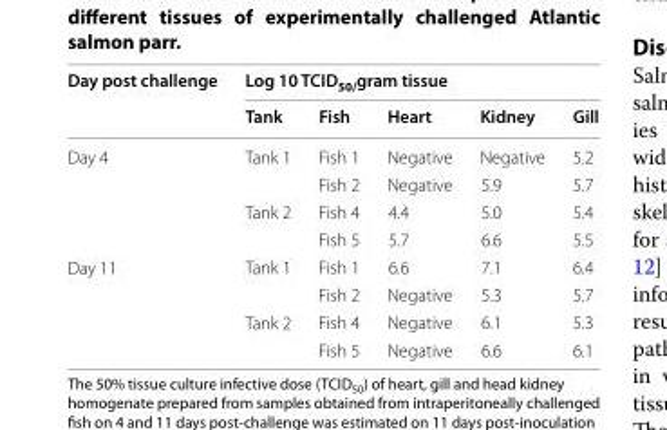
<table><thead><tr><td rowspan="2">Day post challenge</td><td colspan="5">Log 10 TCID<sub>50/</sub>gram tissue</td></tr><tr><td>Tank</td><td>Fish</td><td>Heart</td><td>Kidney</td><td>Gill</td></tr></thead><tbody><tr><td rowspan="4">Day 4</td><td rowspan="2">Tank 1</td><td>Fish 1</td><td>Negative</td><td>Negative</td><td>5.2</td></tr><tr><td>Fish 2</td><td>Negative</td><td>5.9</td><td>5.7</td></tr><tr><td rowspan="2">Tank 2</td><td>Fish 4</td><td>4.4</td><td>5.0</td><td>5.4</td></tr><tr><td>Fish 5</td><td>5.7</td><td>6.6</td><td>5.5</td></tr><tr><td rowspan="4">Day 11</td><td rowspan="2">Tank 1</td><td>Fish 1</td><td>6.6</td><td>7.1</td><td>6.4</td></tr><tr><td>Fish 2</td><td>Negative</td><td>5.3</td><td>5.7</td></tr><tr><td rowspan="2">Tank 2</td><td>Fish 4</td><td>Negative</td><td>6.1</td><td>5.3</td></tr><tr><td>Fish 5</td><td>Negative</td><td>6.6</td><td>6.1</td></tr></tbody></table>